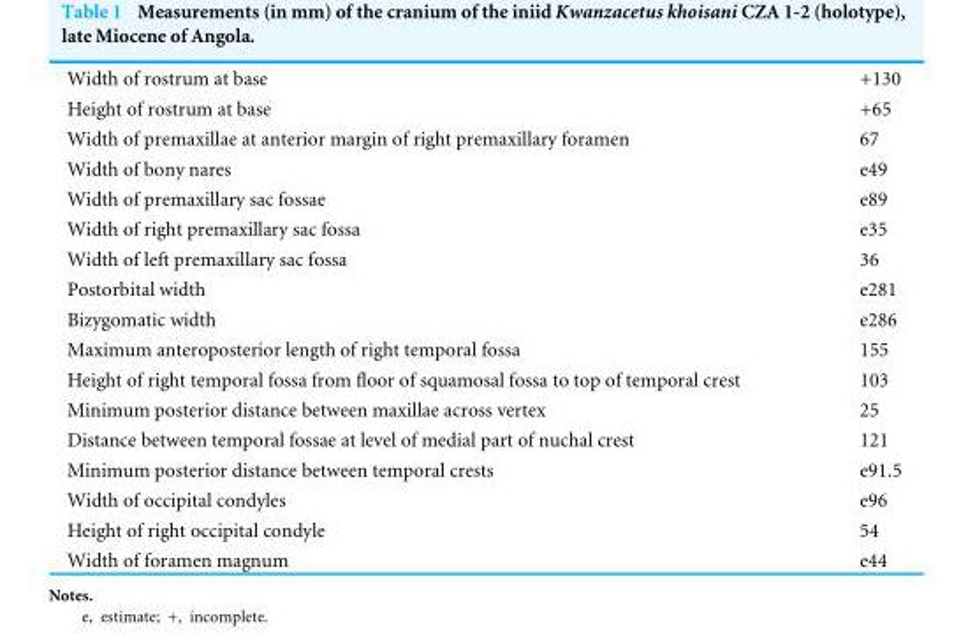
<table><tbody><tr><td>Width of rostrum at base</td><td>+130</td></tr><tr><td>Height of rostrum at base</td><td>+65</td></tr><tr><td>Width of premaxillae at anterior margin of right premaxillary foramen</td><td>67</td></tr><tr><td>Width of bony nares</td><td>e49</td></tr><tr><td>Width of premaxillary sac fossae</td><td>e89</td></tr><tr><td>Width of right premaxillary sac fossa</td><td>e35</td></tr><tr><td>Width of left premaxillary sac fossa</td><td>36</td></tr><tr><td>Postorbital width</td><td>e281</td></tr><tr><td>Bizygomatic width</td><td>e286</td></tr><tr><td>Maximum anteroposterior length of right temporal fossa</td><td>155</td></tr><tr><td>Height of right temporal fossa from floor of squamosal fossa to top of temporal crest</td><td>103</td></tr><tr><td>Minimum posterior distance between maxillae across vertex</td><td>25</td></tr><tr><td>Distance between temporal fossae at level of medial part of nuchal crest</td><td>121</td></tr><tr><td>Minimum posterior distance between temporal crests</td><td>e91.5</td></tr><tr><td>Width of occipital condyles</td><td>e96</td></tr><tr><td>Height of right occipital condyle</td><td>54</td></tr><tr><td>Width of foramen magnum</td><td>e44</td></tr></tbody></table>